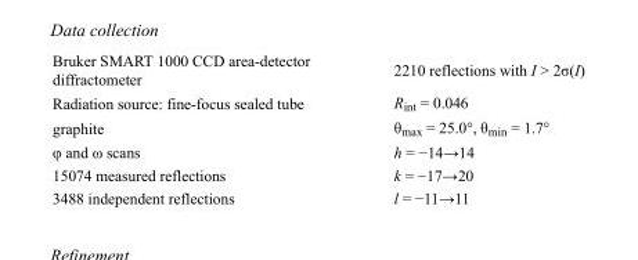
<table><tbody><tr><td>Bruker SMART 1000 CCD area-detector diffractometer</td><td>2210 reflections with I &gt; 2σ(I)</td></tr><tr><td>Radiation source: fine-focus sealed tube</td><td>R<sub>int</sub> = 0.046</td></tr><tr><td>graphite</td><td>θ<sub>max</sub> = 25.0°, θ<sub>min</sub> = 1.7°</td></tr><tr><td>φ and ω scans</td><td>h = −14→14</td></tr><tr><td>15074 measured reflections</td><td>k = −17→20</td></tr><tr><td>3488 independent reflections</td><td>l = −11→11</td></tr></tbody></table>